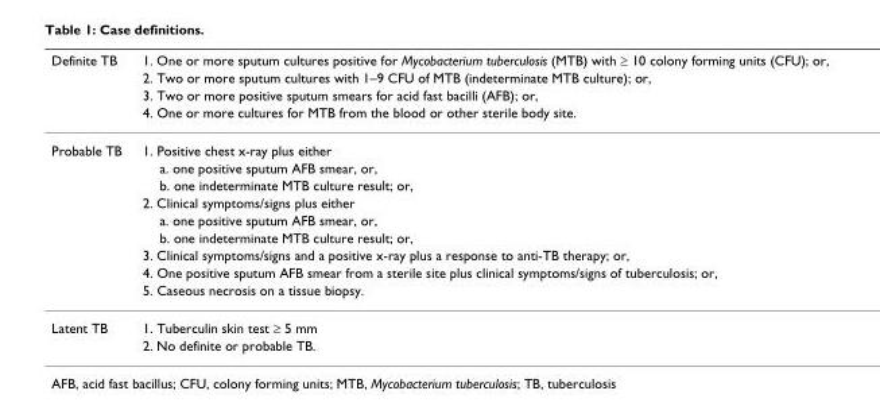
<table><thead><tr><td rowspan="4">Definite TB</td><td rowspan="4">1. One or more sputum cultures positive for Mycobacterium tuberculosis (MTB) with ≥ 10 colony forming units (CFU); or, 2. Two or more sputum cultures with 1–9 CFU of MTB (indeterminate MTB culture); or, 3. Two or more positive sputum smears for acid fast bacilli (AFB); or, 4. One or more cultures for MTB from the blood or other sterile body site.</td></tr><tr></tr><tr></tr><tr></tr></thead><tbody><tr><td rowspan="9">Probable TB</td><td>1. Positive chest x-ray plus either</td></tr><tr><td>a. one positive sputum AFB smear, or,</td></tr><tr><td>b. one indeterminate MTB culture result; or,</td></tr><tr><td>2. Clinical symptoms/signs plus either</td></tr><tr><td>a. one positive sputum AFB smear, or,</td></tr><tr><td>b. one indeterminate MTB culture result; or,</td></tr><tr><td>3. Clinical symptoms/signs and a positive x-ray plus a response to anti-TB therapy; or,</td></tr><tr><td>4. One positive sputum AFB smear from a sterile site plus clinical symptoms/signs of tuberculosis; or,</td></tr><tr><td>5. Caseous necrosis on a tissue biopsy.</td></tr><tr><td rowspan="2">Latent TB</td><td>1. Tuberculin skin test ≥ 5 mm</td></tr><tr><td>2. No definite or probable TB.</td></tr></tbody></table>